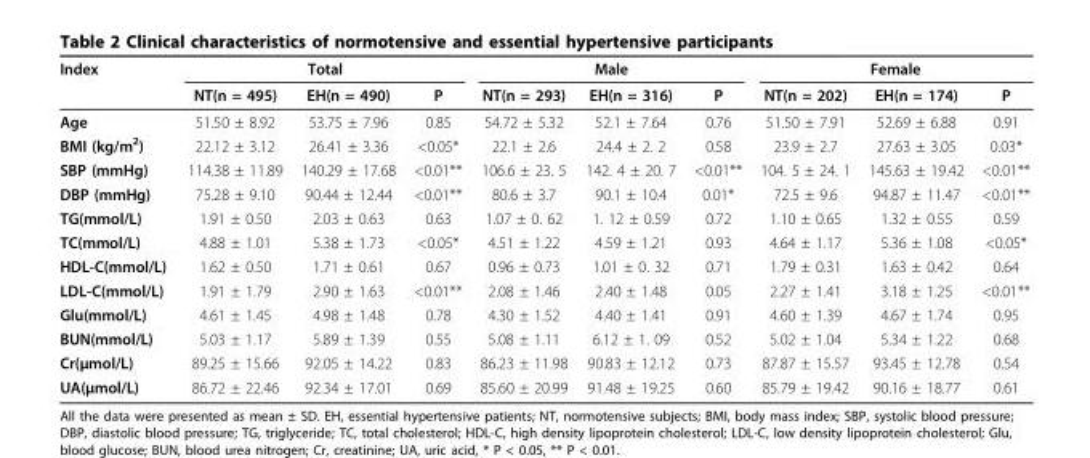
<table><thead><tr><td rowspan="2">Index</td><td colspan="3">Total</td><td colspan="3">Male</td><td colspan="3">Female</td></tr><tr><td>NT(n = 495)</td><td>EH(n = 490)</td><td>P</td><td>NT(n = 293)</td><td>EH(n = 316)</td><td>P</td><td>NT(n = 202)</td><td>EH(n = 174)</td><td>P</td></tr></thead><tbody><tr><td>Age</td><td>51.50 ± 8.92</td><td>53.75 ± 7.96</td><td>0.85</td><td>54.72 ± 5.32</td><td>52.1 ± 7.64</td><td>0.76</td><td>51.50 ± 7.91</td><td>52.69 ± 6.88</td><td>0.91</td></tr><tr><td>BMI (kg/m<sup>2</sup>)</td><td>22.12 ± 3.12</td><td>26.41 ± 3.36</td><td>&lt;0.05*</td><td>22.1 ± 2.6</td><td>24.4 ± 2. 2</td><td>0.58</td><td>23.9 ± 2.7</td><td>27.63 ± 3.05</td><td>0.03*</td></tr><tr><td>SBP (mmHg)</td><td>114.38 ± 11.89</td><td>140.29 ± 17.68</td><td>&lt;0.01**</td><td>106.6 ± 23. 5</td><td>142. 4 ± 20. 7</td><td>&lt;0.01**</td><td>104. 5 ± 24. 1</td><td>145.63 ± 19.42</td><td>&lt;0.01**</td></tr><tr><td>DBP (mmHg)</td><td>75.28 ± 9.10</td><td>90.44 ± 12.44</td><td>&lt;0.01**</td><td>80.6 ± 3.7</td><td>90.1 ± 10.4</td><td>0.01*</td><td>72.5 ± 9.6</td><td>94.87 ± 11.47</td><td>&lt;0.01**</td></tr><tr><td>TG(mmol/L)</td><td>1.91 ± 0.50</td><td>2.03 ± 0.63</td><td>0.63</td><td>1.07 ± 0. 62</td><td>1. 12 ± 0.59</td><td>0.72</td><td>1.10 ± 0.65</td><td>1.32 ± 0.55</td><td>0.59</td></tr><tr><td>TC(mmol/L)</td><td>4.88 ± 1.01</td><td>5.38 ± 1.73</td><td>&lt;0.05*</td><td>4.51 ± 1.22</td><td>4.59 ± 1.21</td><td>0.93</td><td>4.64 ± 1.17</td><td>5.36 ± 1.08</td><td>&lt;0.05*</td></tr><tr><td>HDL-C(mmol/L)</td><td>1.62 ± 0.50</td><td>1.71 ± 0.61</td><td>0.67</td><td>0.96 ± 0.73</td><td>1.01 ± 0. 32</td><td>0.71</td><td>1.79 ± 0.31</td><td>1.63 ± 0.42</td><td>0.64</td></tr><tr><td>LDL-C(mmol/L)</td><td>1.91 ± 1.79</td><td>2.90 ± 1.63</td><td>&lt;0.01**</td><td>2.08 ± 1.46</td><td>2.40 ± 1.48</td><td>0.05</td><td>2.27 ± 1.41</td><td>3.18 ± 1.25</td><td>&lt;0.01**</td></tr><tr><td>Glu(mmol/L)</td><td>4.61 ± 1.45</td><td>4.98 ± 1.48</td><td>0.78</td><td>4.30 ± 1.52</td><td>4.40 ± 1.41</td><td>0.91</td><td>4.60 ± 1.39</td><td>4.67 ± 1.74</td><td>0.95</td></tr><tr><td>BUN(mmol/L)</td><td>5.03 ± 1.17</td><td>5.89 ± 1.39</td><td>0.55</td><td>5.08 ± 1.11</td><td>6.12 ± 1. 09</td><td>0.52</td><td>5.02 ± 1.04</td><td>5.34 ± 1.22</td><td>0.68</td></tr><tr><td>Cr(μmol/L)</td><td>89.25 ± 15.66</td><td>92.05 ± 14.22</td><td>0.83</td><td>86.23 ± 11.98</td><td>90.83 ± 12.12</td><td>0.73</td><td>87.87 ± 15.57</td><td>93.45 ± 12.78</td><td>0.54</td></tr><tr><td>UA(μmol/L)</td><td>86.72 ± 22.46</td><td>92.34 ± 17.01</td><td>0.69</td><td>85.60 ± 20.99</td><td>91.48 ± 19.25</td><td>0.60</td><td>85.79 ± 19.42</td><td>90.16 ± 18.77</td><td>0.61</td></tr></tbody></table>